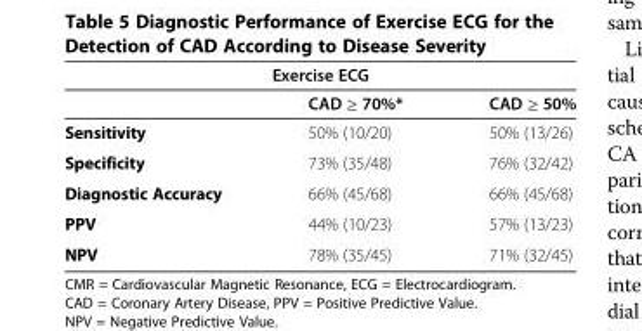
<table><thead><tr><td colspan="3">Exercise ECG</td></tr><tr><td></td><td>CAD ≥ 70%*</td><td>CAD ≥ 50%</td></tr></thead><tbody><tr><td>Sensitivity</td><td>50% (10/20)</td><td>50% (13/26)</td></tr><tr><td>Specificity</td><td>73% (35/48)</td><td>76% (32/42)</td></tr><tr><td>Diagnostic Accuracy</td><td>66% (45/68)</td><td>66% (45/68)</td></tr><tr><td>PPV</td><td>44% (10/23)</td><td>57% (13/23)</td></tr><tr><td>NPV</td><td>78% (35/45)</td><td>71% (32/45)</td></tr></tbody></table>